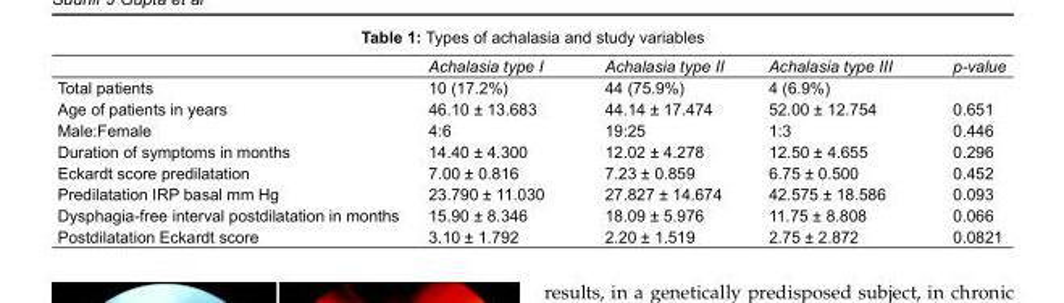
<table><thead><tr><td></td><td>Achalasia type I</td><td>Achalasia type II</td><td>Achalasia type III</td><td>p-value</td></tr></thead><tbody><tr><td>Total patients</td><td>10 (17.2%)</td><td>44 (75.9%)</td><td>4 (6.9%)</td><td></td></tr><tr><td>Age of patients in years</td><td>46.10 ± 13.683</td><td>44.14 ± 17.474</td><td>52.00 ± 12.754</td><td>0.651</td></tr><tr><td>Male:Female</td><td>4:6</td><td>19:25</td><td>1:3</td><td>0.446</td></tr><tr><td>Duration of symptoms in months</td><td>14.40 ± 4.300</td><td>12.02 ± 4.278</td><td>12.50 ± 4.655</td><td>0.296</td></tr><tr><td>Eckardt score predilatation</td><td>7.00 ± 0.816</td><td>7.23 ± 0.859</td><td>6.75 ± 0.500</td><td>0.452</td></tr><tr><td>Predilatation IRP basal mm Hg</td><td>23.790 ± 11.030</td><td>27.827 ± 14.674</td><td>42.575 ± 18.586</td><td>0.093</td></tr><tr><td>Dysphagia-free interval postdilatation in months</td><td>15.90 ± 8.346</td><td>18.09 ± 5.976</td><td>11.75 ± 8.808</td><td>0.066</td></tr><tr><td>Postdilatation Eckardt score</td><td>3.10 ± 1.792</td><td>2.20 ± 1.519</td><td>2.75 ± 2.872</td><td>0.0821</td></tr></tbody></table>